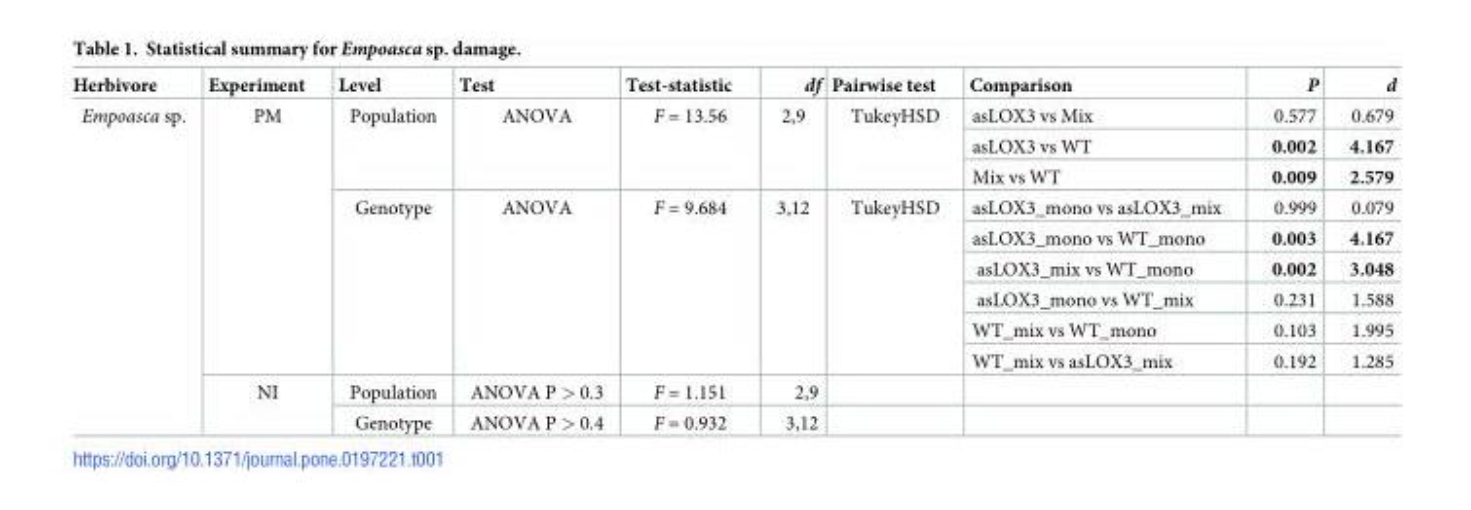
<table><thead><tr><td>Herbivore</td><td>Experiment</td><td>Level</td><td>Test</td><td>Test-statistic</td><td>df</td><td>Pairwise test</td><td>Comparison</td><td>P</td><td>d</td></tr></thead><tbody><tr><td rowspan="11">Empoasca sp.</td><td rowspan="9">PM</td><td rowspan="3">Population</td><td rowspan="3">ANOVA</td><td rowspan="3">F = 13.56</td><td rowspan="3">2,9</td><td rowspan="3">TukeyHSD</td><td>asLOX3 vs Mix</td><td>0.577</td><td>0.679</td></tr><tr><td>asLOX3 vs WT</td><td>0.002</td><td>4.167</td></tr><tr><td>Mix vs WT</td><td>0.009</td><td>2.579</td></tr><tr><td rowspan="6">Genotype</td><td rowspan="6">ANOVA</td><td rowspan="6">F = 9.684</td><td rowspan="6">3,12</td><td rowspan="6">TukeyHSD</td><td>asLOX3_mono vs asLOX3_mix</td><td>0.999</td><td>0.079</td></tr><tr><td>asLOX3_mono vs WT_mono</td><td>0.003</td><td>4.167</td></tr><tr><td>asLOX3_mix vs WT_mono</td><td>0.002</td><td>3.048</td></tr><tr><td>asLOX3_mono vs WT_mix</td><td>0.231</td><td>1.588</td></tr><tr><td>WT_mix vs WT_mono</td><td>0.103</td><td>1.995</td></tr><tr><td>WT_mix vs asLOX3_mix</td><td>0.192</td><td>1.285</td></tr><tr><td rowspan="2">NI</td><td>Population</td><td>ANOVA P &gt; 0.3</td><td>F = 1.151</td><td>2,9</td><td></td><td></td><td></td><td></td></tr><tr><td>Genotype</td><td>ANOVA P &gt; 0.4</td><td>F = 0.932</td><td>3,12</td><td></td><td></td><td></td><td></td></tr></tbody></table>